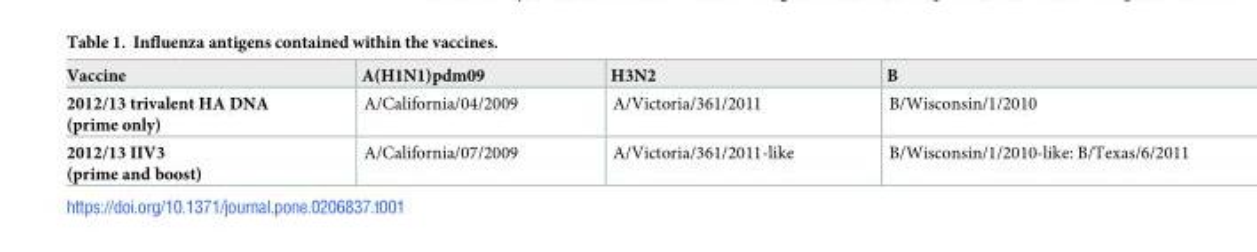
<table><thead><tr><td>Vaccine</td><td>A(H1N1)pdm09</td><td>H3N2</td><td>B</td></tr></thead><tbody><tr><td>2012/13 trivalent HA DNA (prime only)</td><td>A/California/04/2009</td><td>A/Victoria/361/2011</td><td>B/Wisconsin/1/2010</td></tr><tr><td>2012/13 IIV3 (prime and boost)</td><td>A/California/07/2009</td><td>A/Victoria/361/2011-like</td><td>B/Wisconsin/1/2010-like: B/Texas/6/2011</td></tr></tbody></table>